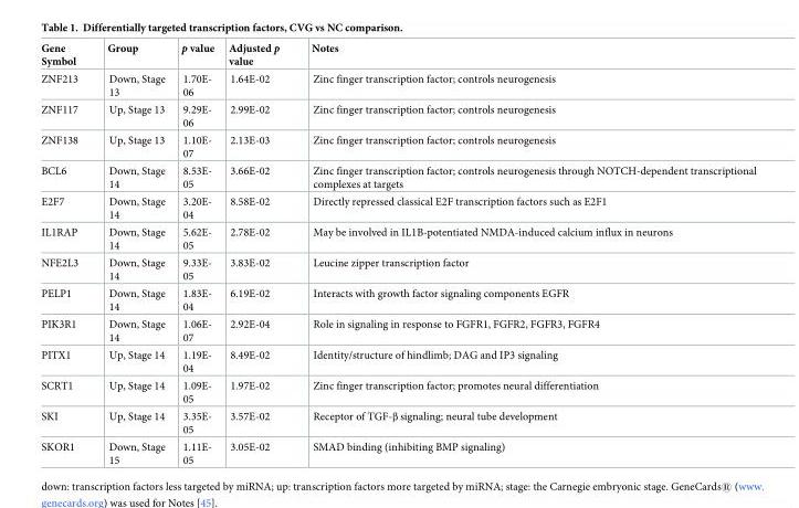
<table><thead><tr><td>Gene Symbol</td><td>Group</td><td>p value</td><td>Adjusted p value</td><td>Notes</td></tr></thead><tbody><tr><td>ZNF213</td><td>Down, Stage 13</td><td>1.70E- 06</td><td>1.64E-02</td><td>Zinc finger transcription factor; controls neurogenesis</td></tr><tr><td>ZNF117</td><td>Up, Stage 13</td><td>9.29E- 06</td><td>2.99E-02</td><td>Zinc finger transcription factor; controls neurogenesis</td></tr><tr><td>ZNF138</td><td>Up, Stage 13</td><td>1.10E- 07</td><td>2.13E-03</td><td>Zinc finger transcription factor; controls neurogenesis</td></tr><tr><td>BCL6</td><td>Down, Stage 14</td><td>8.53E- 05</td><td>3.66E-02</td><td>Zinc finger transcription factor; controls neurogenesis through NOTCH-dependent transcriptional complexes at targets</td></tr><tr><td>E2F7</td><td>Down, Stage 14</td><td>3.20E- 04</td><td>8.58E-02</td><td>Directly repressed classical E2F transcription factors such as E2F1</td></tr><tr><td>IL1RAP</td><td>Down, Stage 14</td><td>5.62E- 05</td><td>2.78E-02</td><td>May be involved in IL1B-potentiated NMDA-induced calcium influx in neurons</td></tr><tr><td>NFE2L3</td><td>Down, Stage 14</td><td>9.33E- 05</td><td>3.83E-02</td><td>Leucine zipper transcription factor</td></tr><tr><td>PELP1</td><td>Down, Stage 14</td><td>1.83E- 04</td><td>6.19E-02</td><td>Interacts with growth factor signaling components EGFR</td></tr><tr><td>PIK3R1</td><td>Down, Stage 14</td><td>1.06E- 07</td><td>2.92E-04</td><td>Role in signaling in response to FGFR1, FGFR2, FGFR3, FGFR4</td></tr><tr><td>PITX1</td><td>Up, Stage 14</td><td>1.19E- 04</td><td>8.49E-02</td><td>Identity/structure of hindlimb; DAG and IP3 signaling</td></tr><tr><td>SCRT1</td><td>Up, Stage 14</td><td>1.09E- 05</td><td>1.97E-02</td><td>Zinc finger transcription factor; promotes neural differentiation</td></tr><tr><td>SKI</td><td>Up, Stage 14</td><td>3.35E- 05</td><td>3.57E-02</td><td>Receptor of TGF-β signaling; neural tube development</td></tr><tr><td>SKOR1</td><td>Down, Stage 15</td><td>1.11E- 05</td><td>3.05E-02</td><td>SMAD binding (inhibiting BMP signaling)</td></tr></tbody></table>